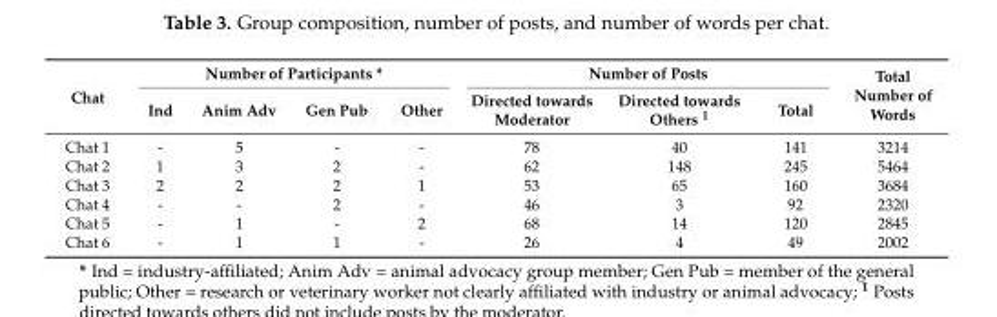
<table><thead><tr><td rowspan="2">Chat</td><td colspan="4">Number of Participants *</td><td colspan="3">Number of Posts</td><td rowspan="2">Total Number of Words</td></tr><tr><td>Ind</td><td>Anim Adv</td><td>Gen Pub</td><td>Other</td><td>Directed towards Moderator</td><td>Directed towards Others <sup>1</sup></td><td>Total</td></tr></thead><tbody><tr><td>Chat 1</td><td>-</td><td>5</td><td>-</td><td>-</td><td>78</td><td>40</td><td>141</td><td>3214</td></tr><tr><td>Chat 2</td><td>1</td><td>3</td><td>2</td><td>-</td><td>62</td><td>148</td><td>245</td><td>5464</td></tr><tr><td>Chat 3</td><td>2</td><td>2</td><td>2</td><td>1</td><td>53</td><td>65</td><td>160</td><td>3684</td></tr><tr><td>Chat 4</td><td>-</td><td>-</td><td>2</td><td>-</td><td>46</td><td>3</td><td>92</td><td>2320</td></tr><tr><td>Chat 5</td><td>-</td><td>1</td><td>-</td><td>2</td><td>68</td><td>14</td><td>120</td><td>2845</td></tr><tr><td>Chat 6</td><td>-</td><td>1</td><td>1</td><td>-</td><td>26</td><td>4</td><td>49</td><td>2002</td></tr></tbody></table>